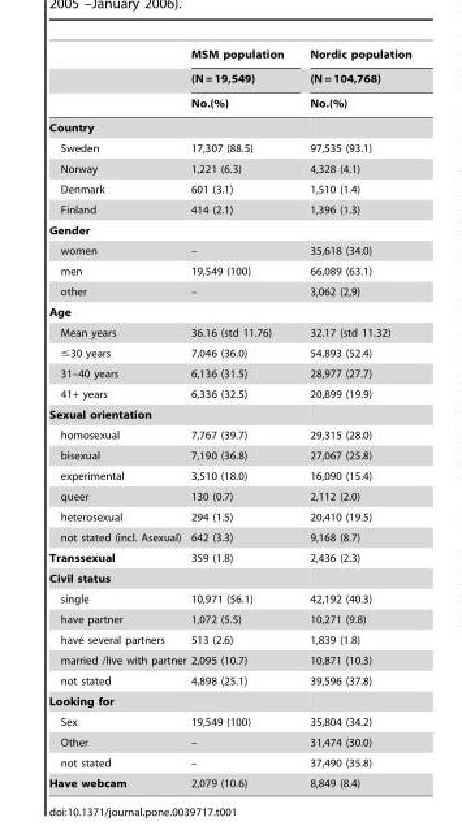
<table><thead><tr><td rowspan="3"></td><td rowspan="3">MSM population (N = 19,549) No.(%)</td><td rowspan="3">Nordic population (N = 104,768) No.(%)</td></tr><tr></tr><tr></tr></thead><tbody><tr><td colspan="3">Country</td></tr><tr><td>Sweden</td><td>17,307 (88.5)</td><td>97,535 (93.1)</td></tr><tr><td>Norway</td><td>1,221 (6.3)</td><td>4,328 (4.1)</td></tr><tr><td>Denmark</td><td>601 (3.1)</td><td>1,510 (1.4)</td></tr><tr><td>Finland</td><td>414 (2.1)</td><td>1,396 (1.3)</td></tr><tr><td colspan="3">Gender</td></tr><tr><td>women</td><td>–</td><td>35,618 (34.0)</td></tr><tr><td>men</td><td>19,549 (100)</td><td>66,089 (63.1)</td></tr><tr><td>other</td><td>–</td><td>3,062 (2,9)</td></tr><tr><td colspan="3">Age</td></tr><tr><td>Mean years</td><td>36.16 (std 11.76)</td><td>32.17 (std 11.32)</td></tr><tr><td>≤30 years</td><td>7,046 (36.0)</td><td>54,893 (52.4)</td></tr><tr><td>31–40 years</td><td>6,136 (31.5)</td><td>28,977 (27.7)</td></tr><tr><td>41+ years</td><td>6,336 (32.5)</td><td>20,899 (19.9)</td></tr><tr><td colspan="3">Sexual orientation</td></tr><tr><td>homosexual</td><td>7,767 (39.7)</td><td>29,315 (28.0)</td></tr><tr><td>bisexual</td><td>7,190 (36.8)</td><td>27,067 (25.8)</td></tr><tr><td>experimental</td><td>3,510 (18.0)</td><td>16,090 (15.4)</td></tr><tr><td>queer</td><td>130 (0.7)</td><td>2,112 (2.0)</td></tr><tr><td>heterosexual</td><td>294 (1.5)</td><td>20,410 (19.5)</td></tr><tr><td>not stated (incl. Asexual)</td><td>642 (3.3)</td><td>9,168 (8.7)</td></tr><tr><td>Transsexual</td><td>359 (1.8)</td><td>2,436 (2.3)</td></tr><tr><td colspan="3">Civil status</td></tr><tr><td>single</td><td>10,971 (56.1)</td><td>42,192 (40.3)</td></tr><tr><td>have partner</td><td>1,072 (5.5)</td><td>10,271 (9.8)</td></tr><tr><td>have several partners</td><td>513 (2.6)</td><td>1,839 (1.8)</td></tr><tr><td>married /live with partner</td><td>2,095 (10.7)</td><td>10,871 (10.3)</td></tr><tr><td>not stated</td><td>4,898 (25.1)</td><td>39,596 (37.8)</td></tr><tr><td colspan="3">Looking for</td></tr><tr><td>Sex</td><td>19,549 (100)</td><td>35,804 (34.2)</td></tr><tr><td>Other</td><td>–</td><td>31,474 (30.0)</td></tr><tr><td>not stated</td><td>–</td><td>37,490 (35.8)</td></tr><tr><td>Have webcam</td><td>2,079 (10.6)</td><td>8,849 (8.4)</td></tr></tbody></table>